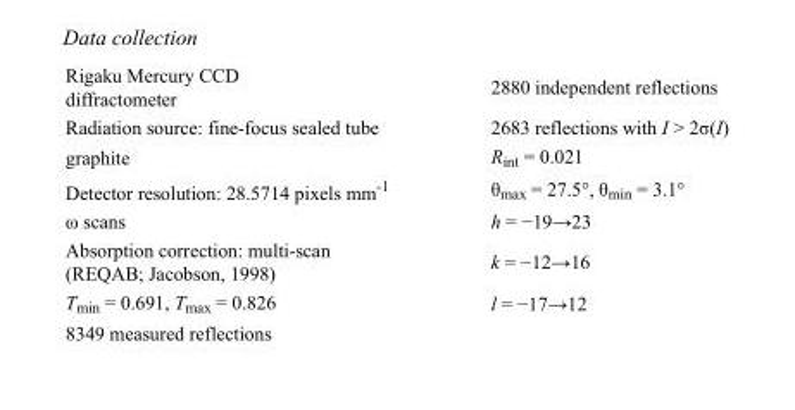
<table><tbody><tr><td>Rigaku Mercury CCD diffractometer</td><td>2880 independent reflections</td></tr><tr><td>Radiation source: fine-focus sealed tube</td><td>2683 reflections with I &gt; 2σ(I)</td></tr><tr><td>graphite</td><td>R<sub>int</sub> = 0.021</td></tr><tr><td>Detector resolution: 28.5714 pixels mm<sup>-1</sup></td><td>θ<sub>max</sub> = 27.5°, θ<sub>min</sub> = 3.1°</td></tr><tr><td>ω scans</td><td>h = −19→23</td></tr><tr><td>Absorption correction: multi-scan (REQAB; Jacobson, 1998)</td><td>k = −12→16</td></tr><tr><td>T<sub>min</sub> = 0.691, T<sub>max</sub> = 0.826</td><td>l = −17→12</td></tr><tr><td>8349 measured reflections</td><td></td></tr></tbody></table>